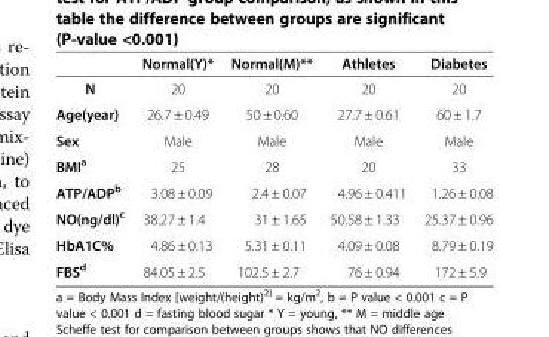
<table><thead><tr><td></td><td>Normal(Y)*</td><td>Normal(M)**</td><td>Athletes</td><td>Diabetes</td></tr></thead><tbody><tr><td>N</td><td>20</td><td>20</td><td>20</td><td>20</td></tr><tr><td>Age(year)</td><td>26.7 ± 0.49</td><td>50 ± 0.60</td><td>27.7 ± 0.61</td><td>60 ± 1.7</td></tr><tr><td>Sex</td><td>Male</td><td>Male</td><td>Male</td><td>Male</td></tr><tr><td>BMI<sup>a</sup></td><td>25</td><td>28</td><td>20</td><td>33</td></tr><tr><td>ATP/ADP<sup>b</sup></td><td>3.08 ± 0.09</td><td>2.4 ± 0.07</td><td>4.96 ± 0.411</td><td>1.26 ± 0.08</td></tr><tr><td>NO(ng/dl)<sup>c</sup></td><td>38.27 ± 1.4</td><td>31 ± 1.65</td><td>50.58 ± 1.33</td><td>25.37 ± 0.96</td></tr><tr><td>HbA1C%</td><td>4.86 ± 0.13</td><td>5.31 ± 0.11</td><td>4.09 ± 0.08</td><td>8.79 ± 0.19</td></tr><tr><td>FBS<sup>d</sup></td><td>84.05 ± 2.5</td><td>102.5 ± 2.7</td><td>76 ± 0.94</td><td>172 ± 5.9</td></tr></tbody></table>